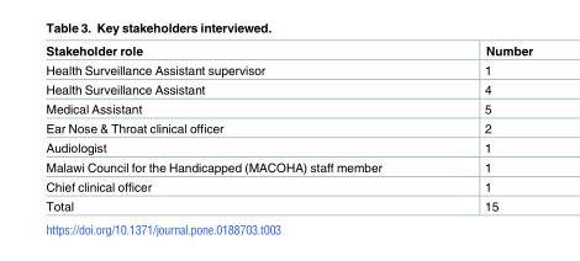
<table><thead><tr><td>Stakeholder role</td><td>Number</td></tr></thead><tbody><tr><td>Health Surveillance Assistant supervisor</td><td>1</td></tr><tr><td>Health Surveillance Assistant</td><td>4</td></tr><tr><td>Medical Assistant</td><td>5</td></tr><tr><td>Ear Nose &amp; Throat clinical officer</td><td>2</td></tr><tr><td>Audiologist</td><td>1</td></tr><tr><td>Malawi Council for the Handicapped (MACOHA) staff member</td><td>1</td></tr><tr><td>Chief clinical officer</td><td>1</td></tr><tr><td>Total</td><td>15</td></tr></tbody></table>